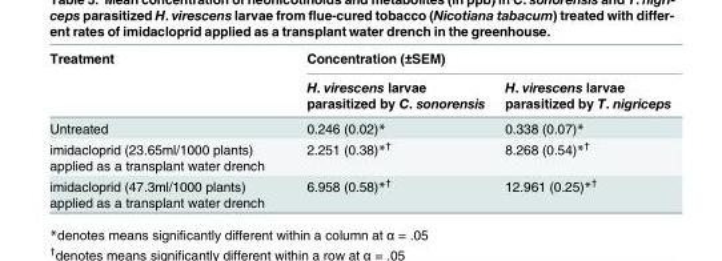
<table><thead><tr><td rowspan="2">Treatment</td><td colspan="2">Concentration (±SEM)</td></tr><tr><td>H. virescens larvae parasitized by C. sonorensis</td><td>H. virescens larvae parasitized by T. nigriceps</td></tr></thead><tbody><tr><td>Untreated</td><td>0.246 (0.02)*</td><td>0.338 (0.07)*</td></tr><tr><td>imidacloprid (23.65ml/1000 plants) applied as a transplant water drench</td><td>2.251 (0.38)*<sup>†</sup></td><td>8.268 (0.54)*<sup>†</sup></td></tr><tr><td>imidacloprid (47.3ml/1000 plants) applied as a transplant water drench</td><td>6.958 (0.58)*<sup>†</sup></td><td>12.961 (0.25)*<sup>†</sup></td></tr></tbody></table>